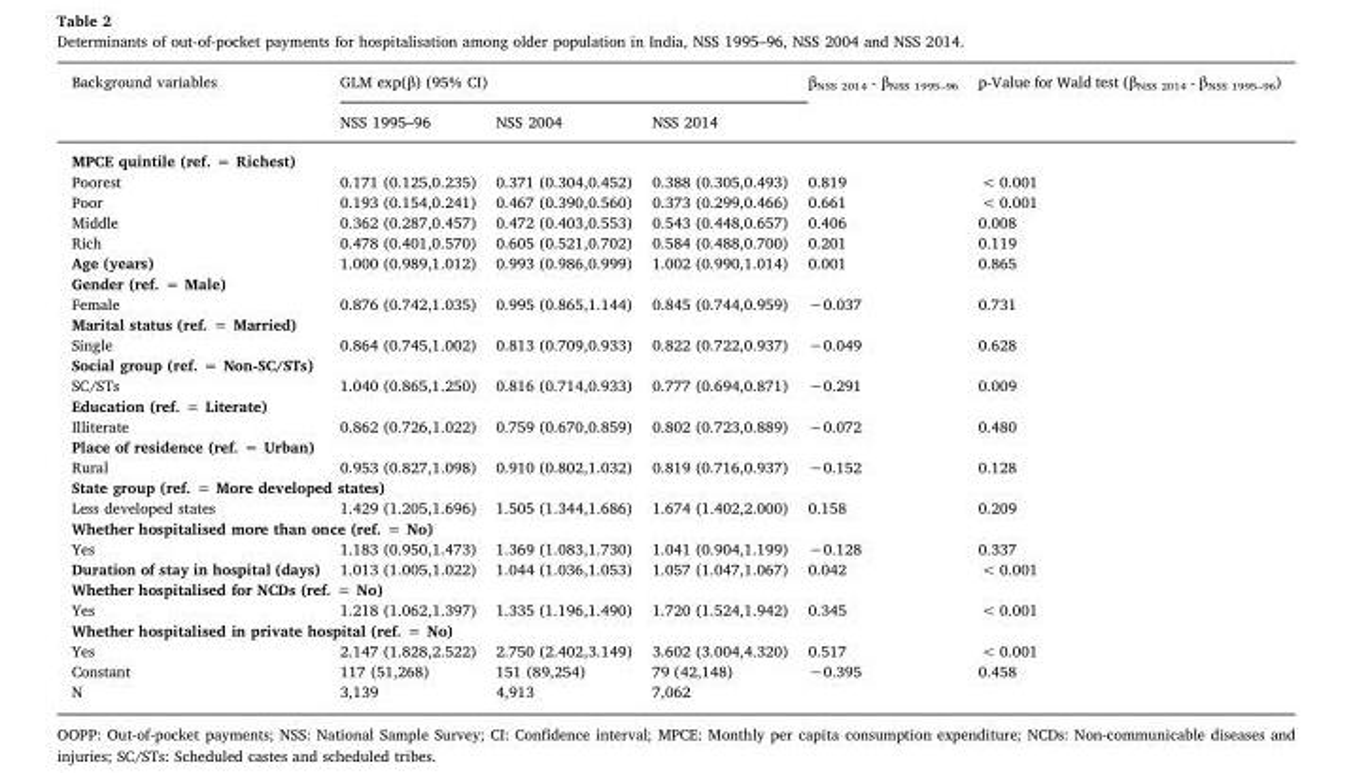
<table><thead><tr><td rowspan="2">Background variables</td><td colspan="3">GLM exp(β) (95% CI)</td><td rowspan="2">β<sub>NSS 2014</sub> - β<sub>NSS 1995–96</sub></td><td rowspan="2">p-Value for Wald test (β<sub>NSS 2014</sub> - β<sub>NSS 1995–96</sub>)</td></tr><tr><td>NSS 1995–96</td><td>NSS 2004</td><td>NSS 2014</td></tr></thead><tbody><tr><td colspan="6">MPCE quintile (ref. = Richest)</td></tr><tr><td>Poorest</td><td>0.171 (0.125,0.235)</td><td>0.371 (0.304,0.452)</td><td>0.388 (0.305,0.493)</td><td>0.819</td><td>&lt; 0.001</td></tr><tr><td>Poor</td><td>0.193 (0.154,0.241)</td><td>0.467 (0.390,0.560)</td><td>0.373 (0.299,0.466)</td><td>0.661</td><td>&lt; 0.001</td></tr><tr><td>Middle</td><td>0.362 (0.287,0.457)</td><td>0.472 (0.403,0.553)</td><td>0.543 (0.448,0.657)</td><td>0.406</td><td>0.008</td></tr><tr><td>Rich</td><td>0.478 (0.401,0.570)</td><td>0.605 (0.521,0.702)</td><td>0.584 (0.488,0.700)</td><td>0.201</td><td>0.119</td></tr><tr><td>Age (years)</td><td>1.000 (0.989,1.012)</td><td>0.993 (0.986,0.999)</td><td>1.002 (0.990,1.014)</td><td>0.001</td><td>0.865</td></tr><tr><td colspan="6">Gender (ref. = Male)</td></tr><tr><td>Female</td><td>0.876 (0.742,1.035)</td><td>0.995 (0.865,1.144)</td><td>0.845 (0.744,0.959)</td><td>−0.037</td><td>0.731</td></tr><tr><td colspan="6">Marital status (ref. = Married)</td></tr><tr><td>Single</td><td>0.864 (0.745,1.002)</td><td>0.813 (0.709,0.933)</td><td>0.822 (0.722,0.937)</td><td>−0.049</td><td>0.628</td></tr><tr><td colspan="6">Social group (ref. = Non-SC/STs)</td></tr><tr><td>SC/STs</td><td>1.040 (0.865,1.250)</td><td>0.816 (0.714,0.933)</td><td>0.777 (0.694,0.871)</td><td>−0.291</td><td>0.009</td></tr><tr><td colspan="6">Education (ref. = Literate)</td></tr><tr><td>Illiterate</td><td>0.862 (0.726,1.022)</td><td>0.759 (0.670,0.859)</td><td>0.802 (0.723,0.889)</td><td>−0.072</td><td>0.480</td></tr><tr><td colspan="6">Place of residence (ref. = Urban)</td></tr><tr><td>Rural</td><td>0.953 (0.827,1.098)</td><td>0.910 (0.802,1.032)</td><td>0.819 (0.716,0.937)</td><td>−0.152</td><td>0.128</td></tr><tr><td colspan="6">State group (ref. = More developed states)</td></tr><tr><td>Less developed states</td><td>1.429 (1.205,1.696)</td><td>1.505 (1.344,1.686)</td><td>1.674 (1.402,2.000)</td><td>0.158</td><td>0.209</td></tr><tr><td colspan="6">Whether hospitalised more than once (ref. = No)</td></tr><tr><td>Yes</td><td>1.183 (0.950,1.473)</td><td>1.369 (1.083,1.730)</td><td>1.041 (0.904,1.199)</td><td>−0.128</td><td>0.337</td></tr><tr><td>Duration of stay in hospital (days)</td><td>1.013 (1.005,1.022)</td><td>1.044 (1.036,1.053)</td><td>1.057 (1.047,1.067)</td><td>0.042</td><td>&lt; 0.001</td></tr><tr><td colspan="6">Whether hospitalised for NCDs (ref. = No)</td></tr><tr><td>Yes</td><td>1.218 (1.062,1.397)</td><td>1.335 (1.196,1.490)</td><td>1.720 (1.524,1.942)</td><td>0.345</td><td>&lt; 0.001</td></tr><tr><td colspan="6">Whether hospitalised in private hospital (ref. = No)</td></tr><tr><td>Yes</td><td>2.147 (1.828,2.522)</td><td>2.750 (2.402,3.149)</td><td>3.602 (3.004,4.320)</td><td>0.517</td><td>&lt; 0.001</td></tr><tr><td>Constant</td><td>117 (51,268)</td><td>151 (89,254)</td><td>79 (42,148)</td><td>−0.395</td><td>0.458</td></tr><tr><td>N</td><td>3,139</td><td>4,913</td><td>7,062</td><td></td><td></td></tr></tbody></table>